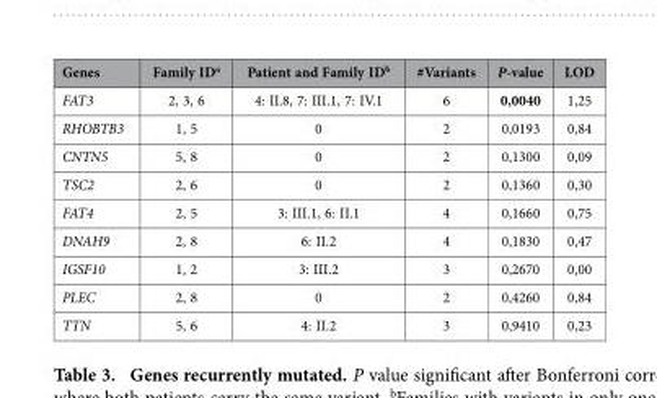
<table><thead><tr><td>Genes</td><td>Family ID<sup>a</sup></td><td>Patient and Family ID<sup>b</sup></td><td>#Variants</td><td>P-value</td><td>LOD</td></tr></thead><tbody><tr><td>FAT3</td><td>2, 3, 6</td><td>4: II.8, 7: III.1, 7: IV.1</td><td>6</td><td>0,0040</td><td>1,25</td></tr><tr><td>RHOBTB3</td><td>1, 5</td><td>0</td><td>2</td><td>0,0193</td><td>0,84</td></tr><tr><td>CNTN5</td><td>5, 8</td><td>0</td><td>2</td><td>0,1300</td><td>0,09</td></tr><tr><td>TSC2</td><td>2, 6</td><td>0</td><td>2</td><td>0,1360</td><td>0,30</td></tr><tr><td>FAT4</td><td>2, 5</td><td>3: III.1, 6: II.1</td><td>4</td><td>0,1660</td><td>0,75</td></tr><tr><td>DNAH9</td><td>2, 8</td><td>6: II.2</td><td>4</td><td>0,1830</td><td>0,47</td></tr><tr><td>IGSF10</td><td>1, 2</td><td>3: III.2</td><td>3</td><td>0,2670</td><td>0,00</td></tr><tr><td>PLEC</td><td>2, 8</td><td>0</td><td>2</td><td>0,4260</td><td>0,84</td></tr><tr><td>TTN</td><td>5, 6</td><td>4: II.2</td><td>3</td><td>0,9410</td><td>0,23</td></tr></tbody></table>